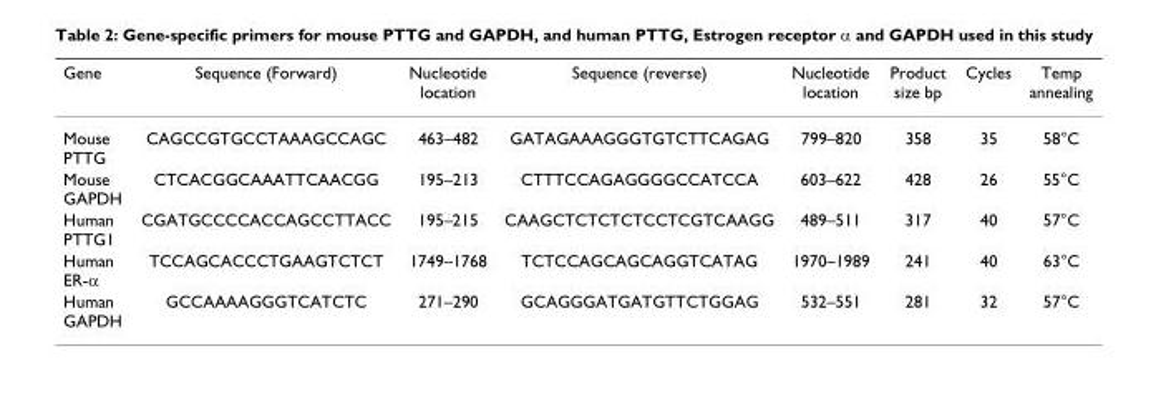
<table><thead><tr><td>Gene</td><td>Sequence (Forward)</td><td>Nucleotide location</td><td>Sequence (reverse)</td><td>Nucleotide location</td><td>Product size bp</td><td>Cycles</td><td>Temp annealing</td></tr></thead><tbody><tr><td>Mouse PTTG</td><td>CAGCCGTGCCTAAAGCCAGC</td><td>463–482</td><td>GATAGAAAGGGTGTCTTCAGAG</td><td>799–820</td><td>358</td><td>35</td><td>58°C</td></tr><tr><td>Mouse GAPDH</td><td>CTCACGGCAAATTCAACGG</td><td>195–213</td><td>CTTTCCAGAGGGGCCATCCA</td><td>603–622</td><td>428</td><td>26</td><td>55°C</td></tr><tr><td>Human PTTG1</td><td>CGATGCCCCACCAGCCTTACC</td><td>195–215</td><td>CAAGCTCTCTCTCCTCGTCAAGG</td><td>489–511</td><td>317</td><td>40</td><td>57°C</td></tr><tr><td>Human ER-α</td><td>TCCAGCACCCTGAAGTCTCT</td><td>1749–1768</td><td>TCTCCAGCAGCAGGTCATAG</td><td>1970–1989</td><td>241</td><td>40</td><td>63°C</td></tr><tr><td>Human GAPDH</td><td>GCCAAAAGGGTCATCTC</td><td>271–290</td><td>GCAGGGATGATGTTCTGGAG</td><td>532–551</td><td>281</td><td>32</td><td>57°C</td></tr></tbody></table>